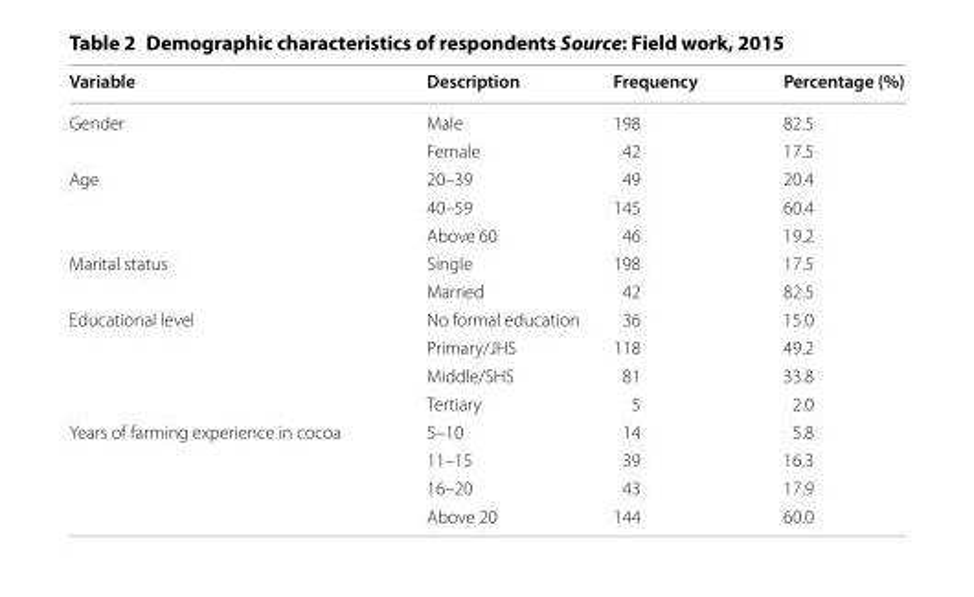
<table><thead><tr><td>Variable</td><td>Description</td><td>Frequency</td><td>Percentage (%)</td></tr></thead><tbody><tr><td rowspan="2">Gender</td><td>Male</td><td>198</td><td>82.5</td></tr><tr><td>Female</td><td>42</td><td>17.5</td></tr><tr><td rowspan="3">Age</td><td>20–39</td><td>49</td><td>20.4</td></tr><tr><td>40–59</td><td>145</td><td>60.4</td></tr><tr><td>Above 60</td><td>46</td><td>19.2</td></tr><tr><td rowspan="2">Marital status</td><td>Single</td><td>198</td><td>17.5</td></tr><tr><td>Married</td><td>42</td><td>82.5</td></tr><tr><td rowspan="4">Educational level</td><td>No formal education</td><td>36</td><td>15.0</td></tr><tr><td>Primary/JHS</td><td>118</td><td>49.2</td></tr><tr><td>Middle/SHS</td><td>81</td><td>33.8</td></tr><tr><td>Tertiary</td><td>5</td><td>2.0</td></tr><tr><td rowspan="4">Years of farming experience in cocoa</td><td>5–10</td><td>14</td><td>5.8</td></tr><tr><td>11–15</td><td>39</td><td>16.3</td></tr><tr><td>16–20</td><td>43</td><td>17.9</td></tr><tr><td>Above 20</td><td>144</td><td>60.0</td></tr></tbody></table>